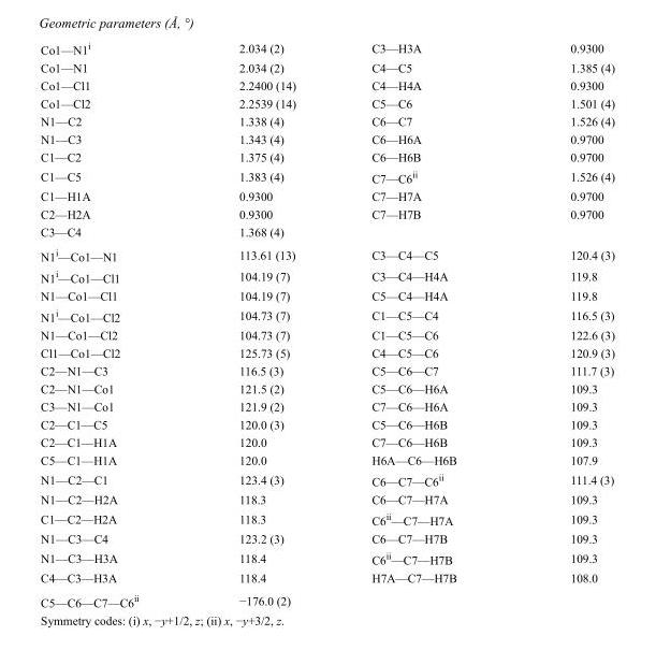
<table><tbody><tr><td>Co1—N1<sup>i</sup></td><td>2.034 (2)</td><td>C3—H3A</td><td>0.9300</td></tr><tr><td>Co1—N1</td><td>2.034 (2)</td><td>C4—C5</td><td>1.385 (4)</td></tr><tr><td>Co1—Cl1</td><td>2.2400 (14)</td><td>C4—H4A</td><td>0.9300</td></tr><tr><td>Co1—Cl2</td><td>2.2539 (14)</td><td>C5—C6</td><td>1.501 (4)</td></tr><tr><td>N1—C2</td><td>1.338 (4)</td><td>C6—C7</td><td>1.526 (4)</td></tr><tr><td>N1—C3</td><td>1.343 (4)</td><td>C6—H6A</td><td>0.9700</td></tr><tr><td>C1—C2</td><td>1.375 (4)</td><td>C6—H6B</td><td>0.9700</td></tr><tr><td>C1—C5</td><td>1.383 (4)</td><td>C7—C6<sup>ii</sup></td><td>1.526 (4)</td></tr><tr><td>C1—H1A</td><td>0.9300</td><td>C7—H7A</td><td>0.9700</td></tr><tr><td>C2—H2A</td><td>0.9300</td><td>C7—H7B</td><td>0.9700</td></tr><tr><td>C3—C4</td><td>1.368 (4)</td><td></td><td></td></tr><tr><td>N1<sup>i</sup>—Co1—N1</td><td>113.61 (13)</td><td>C3—C4—C5</td><td>120.4 (3)</td></tr><tr><td>N1<sup>i</sup>—Co1—Cl1</td><td>104.19 (7)</td><td>C3—C4—H4A</td><td>119.8</td></tr><tr><td>N1—Co1—Cl1</td><td>104.19 (7)</td><td>C5—C4—H4A</td><td>119.8</td></tr><tr><td>N1<sup>i</sup>—Co1—Cl2</td><td>104.73 (7)</td><td>C1—C5—C4</td><td>116.5 (3)</td></tr><tr><td>N1—Co1—Cl2</td><td>104.73 (7)</td><td>C1—C5—C6</td><td>122.6 (3)</td></tr><tr><td>Cl1—Co1—Cl2</td><td>125.73 (5)</td><td>C4—C5—C6</td><td>120.9 (3)</td></tr><tr><td>C2—N1—C3</td><td>116.5 (3)</td><td>C5—C6—C7</td><td>111.7 (3)</td></tr><tr><td>C2—N1—Co1</td><td>121.5 (2)</td><td>C5—C6—H6A</td><td>109.3</td></tr><tr><td>C3—N1—Co1</td><td>121.9 (2)</td><td>C7—C6—H6A</td><td>109.3</td></tr><tr><td>C2—C1—C5</td><td>120.0 (3)</td><td>C5—C6—H6B</td><td>109.3</td></tr><tr><td>C2—C1—H1A</td><td>120.0</td><td>C7—C6—H6B</td><td>109.3</td></tr><tr><td>C5—C1—H1A</td><td>120.0</td><td>H6A—C6—H6B</td><td>107.9</td></tr><tr><td>N1—C2—C1</td><td>123.4 (3)</td><td>C6—C7—C6<sup>ii</sup></td><td>111.4 (3)</td></tr><tr><td>N1—C2—H2A</td><td>118.3</td><td>C6—C7—H7A</td><td>109.3</td></tr><tr><td>C1—C2—H2A</td><td>118.3</td><td>C6<sup>ii</sup>—C7—H7A</td><td>109.3</td></tr><tr><td>N1—C3—C4</td><td>123.2 (3)</td><td>C6—C7—H7B</td><td>109.3</td></tr><tr><td>N1—C3—H3A</td><td>118.4</td><td>C6<sup>ii</sup>—C7—H7B</td><td>109.3</td></tr><tr><td>C4—C3—H3A</td><td>118.4</td><td>H7A—C7—H7B</td><td>108.0</td></tr><tr><td>C5—C6—C7—C6<sup>ii</sup></td><td>−176.0 (2)</td><td></td><td></td></tr></tbody></table>